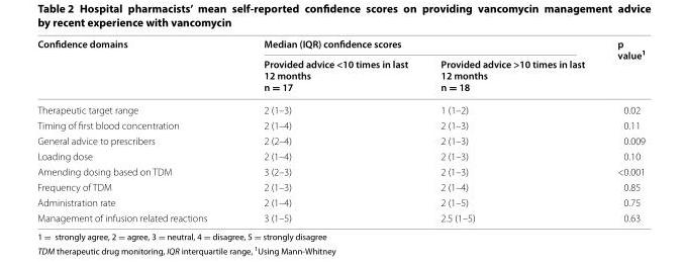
<table><thead><tr><td rowspan="2">Confidence domains</td><td colspan="2">Median (IQR) confidence scores</td><td rowspan="2">p value<sup>1</sup></td></tr><tr><td>Provided advice &lt;10 times in last 12 months n = 17</td><td>Provided advice &gt;10 times in last 12 months n = 18</td></tr></thead><tbody><tr><td>Therapeutic target range</td><td>2 (1–3)</td><td>1 (1–2)</td><td>0.02</td></tr><tr><td>Timing of first blood concentration</td><td>2 (1–4)</td><td>2 (1–3)</td><td>0.11</td></tr><tr><td>General advice to prescribers</td><td>2 (2–4)</td><td>2 (1–3)</td><td>0.009</td></tr><tr><td>Loading dose</td><td>2 (1–4)</td><td>2 (1–3)</td><td>0.10</td></tr><tr><td>Amending dosing based on TDM</td><td>3 (2–3)</td><td>2 (1–3)</td><td>&lt;0.001</td></tr><tr><td>Frequency of TDM</td><td>2 (1–3)</td><td>2 (1–4)</td><td>0.85</td></tr><tr><td>Administration rate</td><td>2 (1–4)</td><td>2 (1–5)</td><td>0.75</td></tr><tr><td>Management of infusion related reactions</td><td>3 (1–5)</td><td>2.5 (1–5)</td><td>0.63</td></tr></tbody></table>